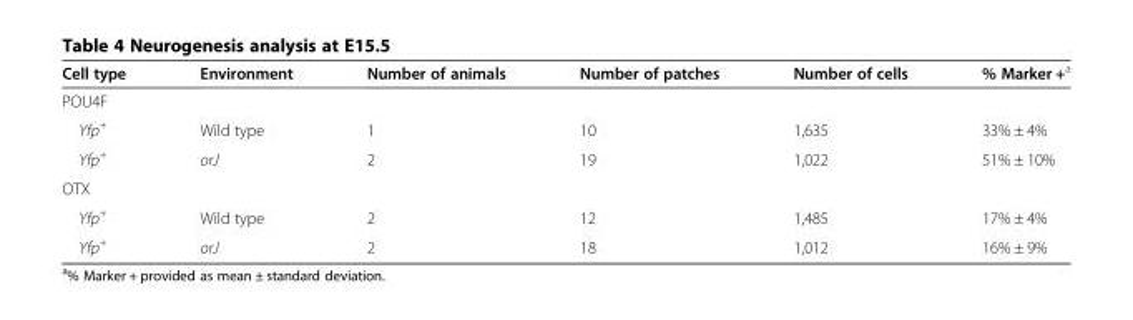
<table><thead><tr><td>Cell type</td><td>Environment</td><td>Number of animals</td><td>Number of patches</td><td>Number of cells</td><td>% Marker +<sup>a</sup></td></tr></thead><tbody><tr><td colspan="6">POU4F</td></tr><tr><td>Yfp<sup>+</sup></td><td>Wild type</td><td>1</td><td>10</td><td>1,635</td><td>33% ± 4%</td></tr><tr><td>Yfp<sup>+</sup></td><td>orJ</td><td>2</td><td>19</td><td>1,022</td><td>51% ± 10%</td></tr><tr><td colspan="6">OTX</td></tr><tr><td>Yfp<sup>+</sup></td><td>Wild type</td><td>2</td><td>12</td><td>1,485</td><td>17% ± 4%</td></tr><tr><td>Yfp<sup>+</sup></td><td>orJ</td><td>2</td><td>18</td><td>1,012</td><td>16% ± 9%</td></tr></tbody></table>